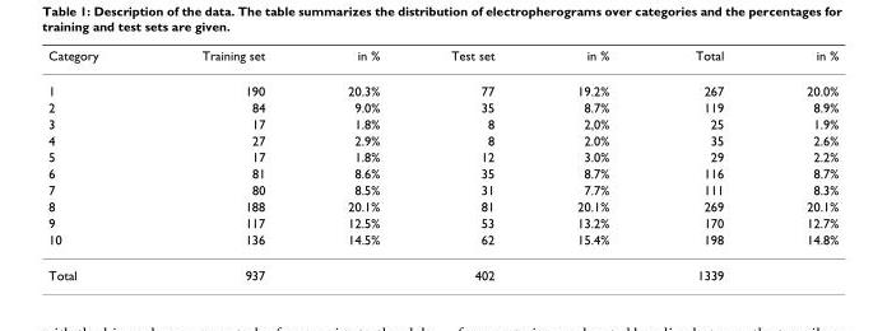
<table><thead><tr><td>Category</td><td>Training set</td><td>in %</td><td>Test set</td><td>in %</td><td>Total</td><td>in %</td></tr></thead><tbody><tr><td>1</td><td>190</td><td>20.3%</td><td>77</td><td>19.2%</td><td>267</td><td>20.0%</td></tr><tr><td>2</td><td>84</td><td>9.0%</td><td>35</td><td>8.7%</td><td>119</td><td>8.9%</td></tr><tr><td>3</td><td>17</td><td>1.8%</td><td>8</td><td>2,0%</td><td>25</td><td>1.9%</td></tr><tr><td>4</td><td>27</td><td>2.9%</td><td>8</td><td>2.0%</td><td>35</td><td>2.6%</td></tr><tr><td>5</td><td>17</td><td>1.8%</td><td>12</td><td>3.0%</td><td>29</td><td>2.2%</td></tr><tr><td>6</td><td>81</td><td>8.6%</td><td>35</td><td>8.7%</td><td>116</td><td>8.7%</td></tr><tr><td>7</td><td>80</td><td>8.5%</td><td>31</td><td>7.7%</td><td>111</td><td>8.3%</td></tr><tr><td>8</td><td>188</td><td>20.1%</td><td>81</td><td>20.1%</td><td>269</td><td>20.1%</td></tr><tr><td>9</td><td>117</td><td>12.5%</td><td>53</td><td>13.2%</td><td>170</td><td>12.7%</td></tr><tr><td>10</td><td>136</td><td>14.5%</td><td>62</td><td>15.4%</td><td>198</td><td>14.8%</td></tr><tr><td>Total</td><td>937</td><td></td><td>402</td><td></td><td>1339</td><td></td></tr></tbody></table>